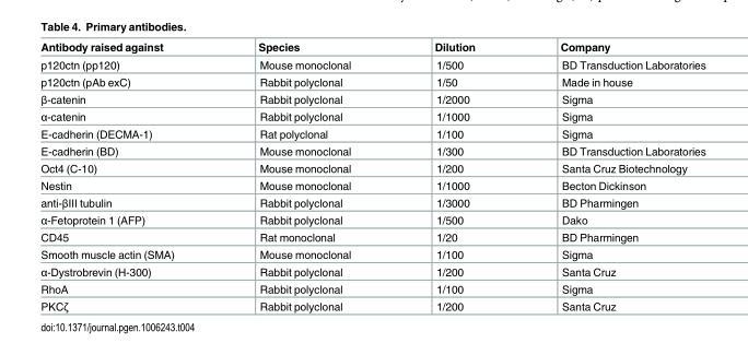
<table><thead><tr><td>Antibody raised against</td><td>Species</td><td>Dilution</td><td>Company</td></tr></thead><tbody><tr><td>p120ctn (pp120)</td><td>Mouse monoclonal</td><td>1/500</td><td>BD Transduction Laboratories</td></tr><tr><td>p120ctn (pAb exC)</td><td>Rabbit polyclonal</td><td>1/50</td><td>Made in house</td></tr><tr><td>β-catenin</td><td>Rabbit polyclonal</td><td>1/2000</td><td>Sigma</td></tr><tr><td>α-catenin</td><td>Rabbit polyclonal</td><td>1/1000</td><td>Sigma</td></tr><tr><td>E-cadherin (DECMA-1)</td><td>Rat polyclonal</td><td>1/100</td><td>Sigma</td></tr><tr><td>E-cadherin (BD)</td><td>Mouse monoclonal</td><td>1/300</td><td>BD Transduction Laboratories</td></tr><tr><td>Oct4 (C-10)</td><td>Mouse monoclonal</td><td>1/200</td><td>Santa Cruz Biotechnology</td></tr><tr><td>Nestin</td><td>Mouse monoclonal</td><td>1/1000</td><td>Becton Dickinson</td></tr><tr><td>anti-βIII tubulin</td><td>Rabbit polyclonal</td><td>1/3000</td><td>BD Pharmingen</td></tr><tr><td>α-Fetoprotein 1 (AFP)</td><td>Rabbit polyclonal</td><td>1/500</td><td>Dako</td></tr><tr><td>CD45</td><td>Rat monoclonal</td><td>1/20</td><td>BD Pharmingen</td></tr><tr><td>Smooth muscle actin (SMA)</td><td>Mouse monoclonal</td><td>1/100</td><td>Sigma</td></tr><tr><td>α-Dystrobrevin (H-300)</td><td>Rabbit polyclonal</td><td>1/200</td><td>Santa Cruz</td></tr><tr><td>RhoA</td><td>Rabbit polyclonal</td><td>1/100</td><td>Sigma</td></tr><tr><td>PKCζ</td><td>Rabbit polyclonal</td><td>1/200</td><td>Santa Cruz</td></tr></tbody></table>